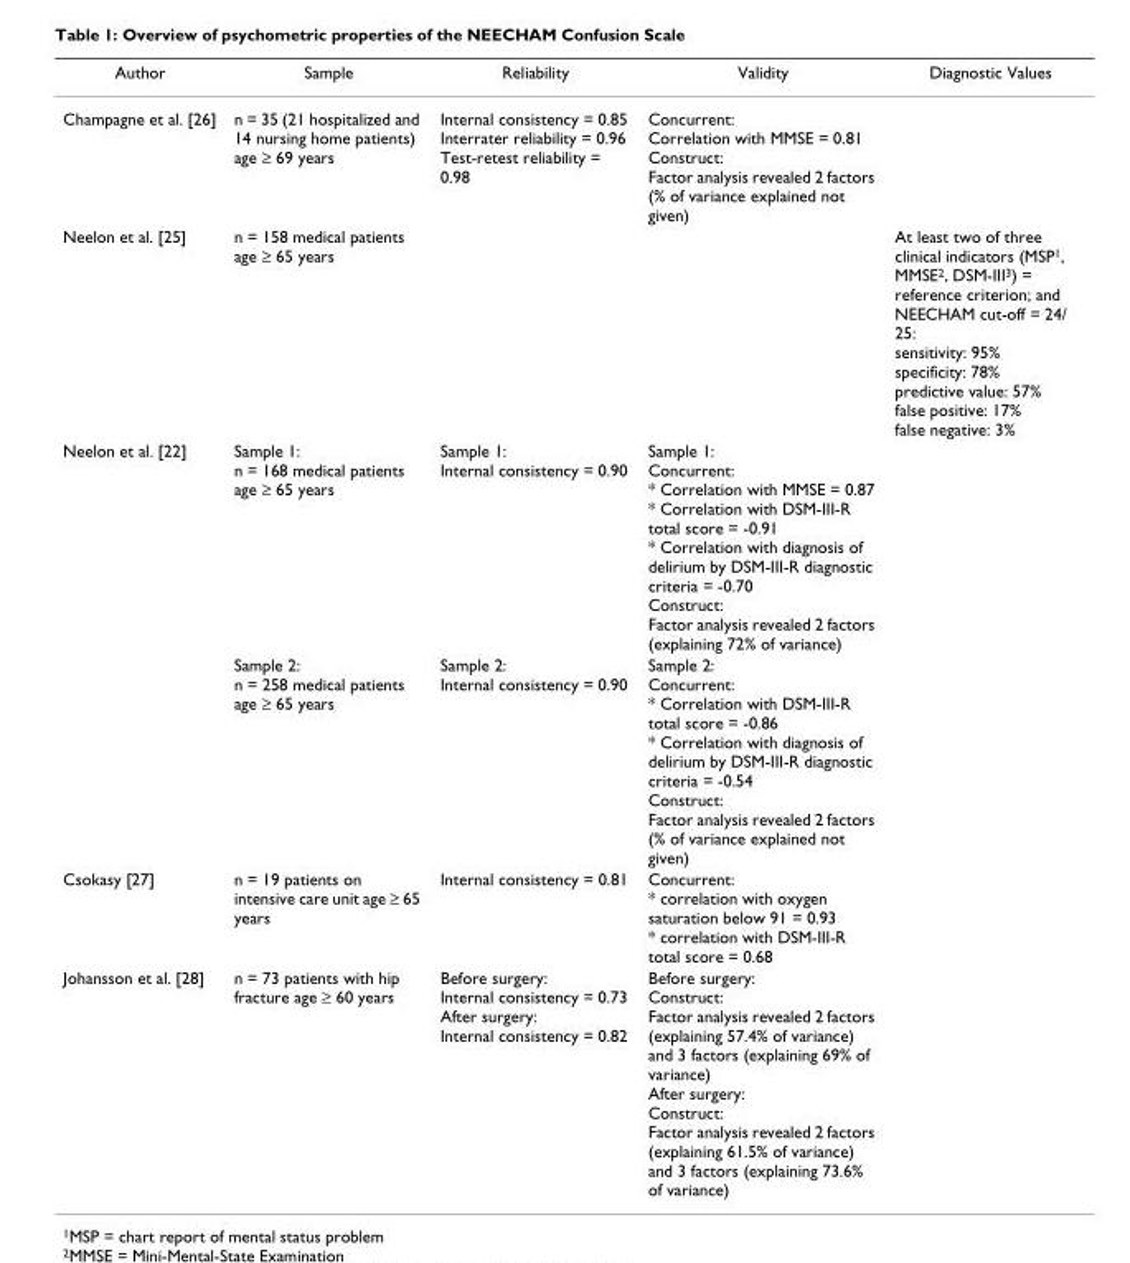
<table><thead><tr><td>Author</td><td>Sample</td><td>Reliability</td><td>Validity</td><td>Diagnostic Values</td></tr></thead><tbody><tr><td>Champagne et al. [26]</td><td>n = 35 (21 hospitalized and 14 nursing home patients) age ≥ 69 years</td><td>Internal consistency = 0.85 Interrater reliability = 0.96 Test-retest reliability = 0.98</td><td>Concurrent: Correlation with MMSE = 0.81 Construct: Factor analysis revealed 2 factors (% of variance explained not given)</td><td></td></tr><tr><td>Neelon et al. [25]</td><td>n = 158 medical patients age ≥ 65 years</td><td></td><td></td><td>At least two of three clinical indicators (MSP<sup>1</sup>, MMSE<sup>2</sup>, DSM-III<sup>3</sup>) = reference criterion; and NEECHAM cut-off = 24/ 25: sensitivity: 95% specificity: 78% predictive value: 57% false positive: 17% false negative: 3%</td></tr><tr><td rowspan="2">Neelon et al. [22]</td><td>Sample 1: n = 168 medical patients age ≥ 65 years</td><td>Sample 1: Internal consistency = 0.90</td><td>Sample 1: Concurrent: * Correlation with MMSE = 0.87 * Correlation with DSM-III-R total score = -0.91 * Correlation with diagnosis of delirium by DSM-III-R diagnostic criteria = -0.70 Construct: Factor analysis revealed 2 factors (explaining 72% of variance)</td><td></td></tr><tr><td>Sample 2: n = 258 medical patients age ≥ 65 years</td><td>Sample 2: Internal consistency = 0.90</td><td>Sample 2: Concurrent: * Correlation with DSM-III-R total score = -0.86 * Correlation with diagnosis of delirium by DSM-III-R diagnostic criteria = -0.54 Construct: Factor analysis revealed 2 factors (% of variance explained not given)</td><td></td></tr><tr><td>Csokasy [27]</td><td>n = 19 patients on intensive care unit age ≥ 65 years</td><td>Internal consistency = 0.81</td><td>Concurrent: * correlation with oxygen saturation below 91 = 0.93 * correlation with DSM-III-R total score = 0.68</td><td></td></tr><tr><td>Johansson et al. [28]</td><td>n = 73 patients with hip fracture age ≥ 60 years</td><td>Before surgery: Internal consistency = 0.73 After surgery: Internal consistency = 0.82</td><td>Before surgery: Construct: Factor analysis revealed 2 factors (explaining 57.4% of variance) and 3 factors (explaining 69% of variance) After surgery: Construct: Factor analysis revealed 2 factors (explaining 61.5% of variance) and 3 factors (explaining 73.6% of variance)</td><td></td></tr></tbody></table>